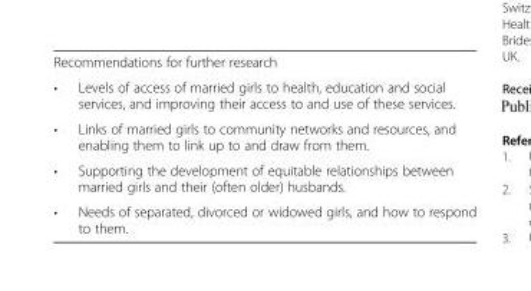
<table><tbody><tr><td colspan="2">Recommendations for further research</td></tr><tr><td>•</td><td>Levels of access of married girls to health, education and social services, and improving their access to and use of these services.</td></tr><tr><td>•</td><td>Links of married girls to community networks and resources, and enabling them to link up to and draw from them.</td></tr><tr><td>•</td><td>Supporting the development of equitable relationships between married girls and their (often older) husbands.</td></tr><tr><td>•</td><td>Needs of separated, divorced or widowed girls, and how to respond to them.</td></tr></tbody></table>